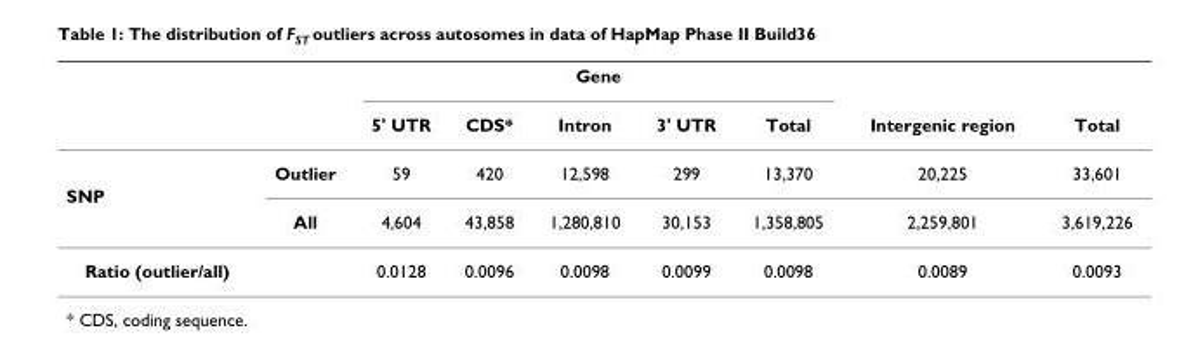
<table><thead><tr><td rowspan="2"></td><td rowspan="2"></td><td colspan="5">Gene</td><td rowspan="2">Intergenic region</td><td rowspan="2">Total</td></tr><tr><td>5&#x27; UTR</td><td>CDS*</td><td>Intron</td><td>3&#x27; UTR</td><td>Total</td></tr></thead><tbody><tr><td></td><td>Outlier</td><td>59</td><td>420</td><td>12,598</td><td>299</td><td>13,370</td><td>20,225</td><td>33,601</td></tr><tr><td colspan="9">SNP</td></tr><tr><td></td><td>All</td><td>4,604</td><td>43,858</td><td>1,280,810</td><td>30,153</td><td>1,358,805</td><td>2,259,801</td><td>3,619,226</td></tr><tr><td>Ratio (outlier/all)</td><td></td><td>0.0128</td><td>0.0096</td><td>0.0098</td><td>0.0099</td><td>0.0098</td><td>0.0089</td><td>0.0093</td></tr></tbody></table>